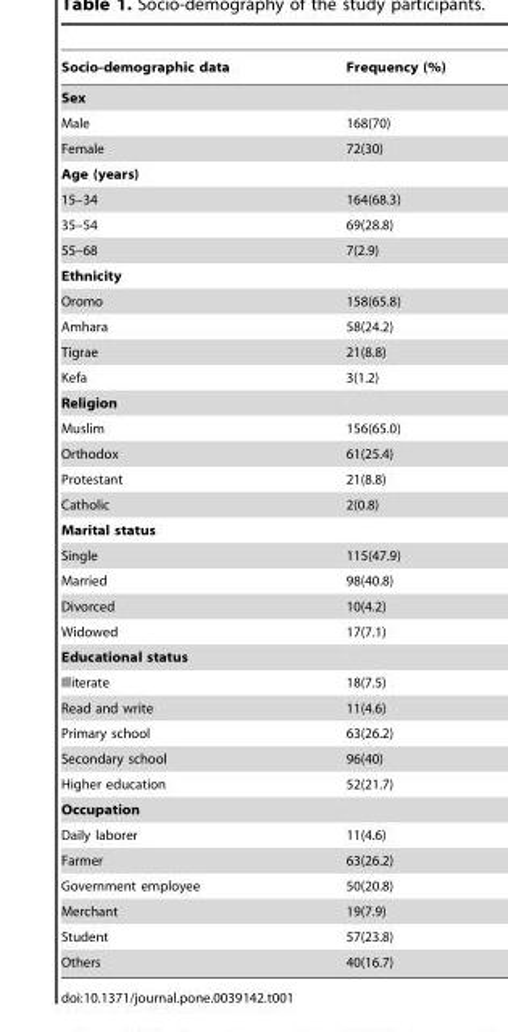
<table><thead><tr><td>Socio-demographic data</td><td>Frequency (%)</td></tr></thead><tbody><tr><td colspan="2">Sex</td></tr><tr><td>Male</td><td>168(70)</td></tr><tr><td>Female</td><td>72(30)</td></tr><tr><td colspan="2">Age (years)</td></tr><tr><td>15–34</td><td>164(68.3)</td></tr><tr><td>35–54</td><td>69(28.8)</td></tr><tr><td>55–68</td><td>7(2.9)</td></tr><tr><td colspan="2">Ethnicity</td></tr><tr><td>Oromo</td><td>158(65.8)</td></tr><tr><td>Amhara</td><td>58(24.2)</td></tr><tr><td>Tigrae</td><td>21(8.8)</td></tr><tr><td>Kefa</td><td>3(1.2)</td></tr><tr><td colspan="2">Religion</td></tr><tr><td>Muslim</td><td>156(65.0)</td></tr><tr><td>Orthodox</td><td>61(25.4)</td></tr><tr><td>Protestant</td><td>21(8.8)</td></tr><tr><td>Catholic</td><td>2(0.8)</td></tr><tr><td colspan="2">Marital status</td></tr><tr><td>Single</td><td>115(47.9)</td></tr><tr><td>Married</td><td>98(40.8)</td></tr><tr><td>Divorced</td><td>10(4.2)</td></tr><tr><td>Widowed</td><td>17(7.1)</td></tr><tr><td colspan="2">Educational status</td></tr><tr><td>Illiterate</td><td>18(7.5)</td></tr><tr><td>Read and write</td><td>11(4.6)</td></tr><tr><td>Primary school</td><td>63(26.2)</td></tr><tr><td>Secondary school</td><td>96(40)</td></tr><tr><td>Higher education</td><td>52(21.7)</td></tr><tr><td colspan="2">Occupation</td></tr><tr><td>Daily laborer</td><td>11(4.6)</td></tr><tr><td>Farmer</td><td>63(26.2)</td></tr><tr><td>Government employee</td><td>50(20.8)</td></tr><tr><td>Merchant</td><td>19(7.9)</td></tr><tr><td>Student</td><td>57(23.8)</td></tr><tr><td>Others</td><td>40(16.7)</td></tr></tbody></table>